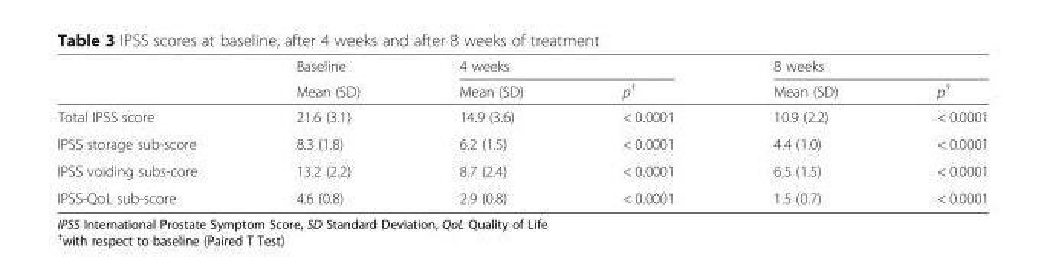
<table><thead><tr><td rowspan="2"></td><td rowspan="2">Baseline Mean (SD)</td><td colspan="2">4 weeks</td><td colspan="2">8 weeks</td></tr><tr><td>Mean (SD)</td><td>p<sup>†</sup></td><td>Mean (SD)</td><td>p<sup>†</sup></td></tr></thead><tbody><tr><td>Total IPSS score</td><td>21.6 (3.1)</td><td>14.9 (3.6)</td><td>&lt; 0.0001</td><td>10.9 (2.2)</td><td>&lt; 0.0001</td></tr><tr><td>IPSS storage sub-score</td><td>8.3 (1.8)</td><td>6.2 (1.5)</td><td>&lt; 0.0001</td><td>4.4 (1.0)</td><td>&lt; 0.0001</td></tr><tr><td>IPSS voiding subs-core</td><td>13.2 (2.2)</td><td>8.7 (2.4)</td><td>&lt; 0.0001</td><td>6.5 (1.5)</td><td>&lt; 0.0001</td></tr><tr><td>IPSS-QoL sub-score</td><td>4.6 (0.8)</td><td>2.9 (0.8)</td><td>&lt; 0.0001</td><td>1.5 (0.7)</td><td>&lt; 0.0001</td></tr></tbody></table>